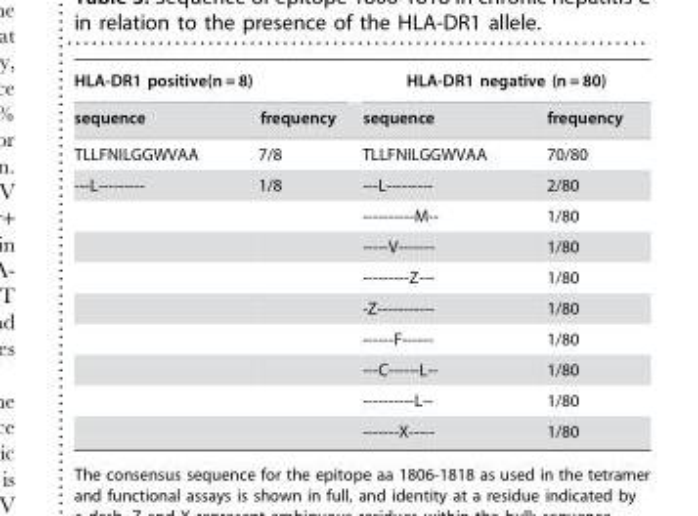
<table><thead><tr><td colspan="2">HLA-DR1 positive(n = 8)</td><td colspan="2">HLA-DR1 negative (n = 80)</td></tr><tr><td>sequence</td><td>frequency</td><td>sequence</td><td>frequency</td></tr></thead><tbody><tr><td>TLLFNILGGWVAA</td><td>7/8</td><td>TLLFNILGGWVAA</td><td>70/80</td></tr><tr><td rowspan="9">---L---------</td><td>1/8</td><td>---L---------</td><td>2/80</td></tr><tr><td></td><td>----------M--</td><td>1/80</td></tr><tr><td></td><td>-----V-------</td><td>1/80</td></tr><tr><td></td><td>---------Z---</td><td>1/80</td></tr><tr><td></td><td>-Z-----------</td><td>1/80</td></tr><tr><td></td><td>------F------</td><td>1/80</td></tr><tr><td></td><td>---C------L--</td><td>1/80</td></tr><tr><td></td><td>----------L--</td><td>1/80</td></tr><tr><td></td><td>-------X-----</td><td>1/80</td></tr></tbody></table>